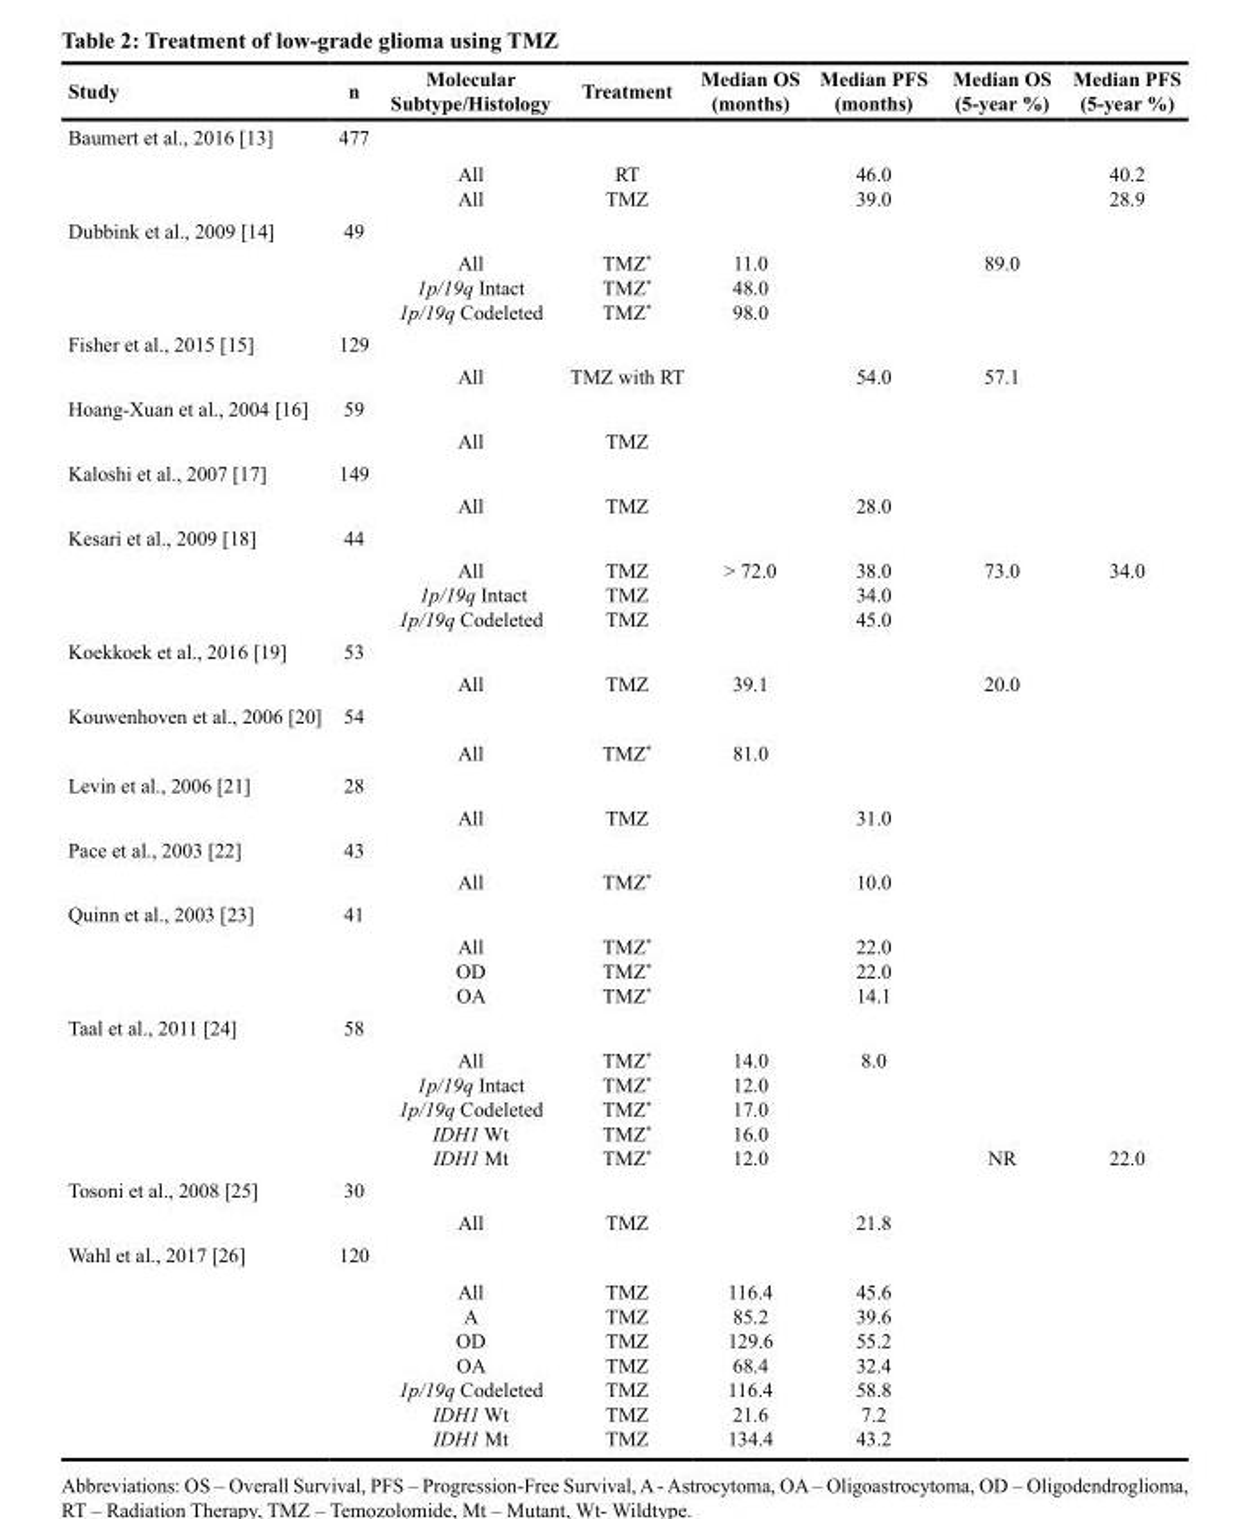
<table><thead><tr><td>Study</td><td>n</td><td>Molecular Subtype/Histology</td><td>Treatment</td><td>Median OS (months)</td><td>Median PFS (months)</td><td>Median OS (5-year %)</td><td>Median PFS (5-year %)</td></tr></thead><tbody><tr><td rowspan="2">Baumert et al., 2016 [13]</td><td>477</td><td></td><td></td><td></td><td></td><td></td><td></td></tr><tr><td></td><td>All All</td><td>RT TMZ</td><td></td><td>46.0 39.0</td><td></td><td>40.2 28.9</td></tr><tr><td rowspan="2">Dubbink et al., 2009 [14]</td><td>49</td><td></td><td></td><td></td><td></td><td></td><td></td></tr><tr><td></td><td>All 1p/19q Intact 1p/19q Codeleted</td><td>TMZ* TMZ* TMZ*</td><td>11.0 48.0 98.0</td><td></td><td>89.0</td><td></td></tr><tr><td rowspan="2">Fisher et al., 2015 [15]</td><td>129</td><td></td><td></td><td></td><td></td><td></td><td></td></tr><tr><td></td><td>All</td><td>TMZ with RT</td><td></td><td>54.0</td><td>57.1</td><td></td></tr><tr><td rowspan="2">Hoang-Xuan et al., 2004 [16]</td><td>59</td><td></td><td></td><td></td><td></td><td></td><td></td></tr><tr><td></td><td>All</td><td>TMZ</td><td></td><td></td><td></td><td></td></tr><tr><td rowspan="2">Kaloshi et al., 2007 [17]</td><td>149</td><td></td><td></td><td></td><td></td><td></td><td></td></tr><tr><td></td><td>All</td><td>TMZ</td><td></td><td>28.0</td><td></td><td></td></tr><tr><td rowspan="2">Kesari et al., 2009 [18]</td><td>44</td><td></td><td></td><td></td><td></td><td></td><td></td></tr><tr><td></td><td>All 1p/19q Intact 1p/19q Codeleted</td><td>TMZ TMZ TMZ</td><td>&gt; 72.0</td><td>38.0 34.0 45.0</td><td>73.0</td><td>34.0</td></tr><tr><td rowspan="2">Koekkoek et al., 2016 [19]</td><td>53</td><td></td><td></td><td></td><td></td><td></td><td></td></tr><tr><td></td><td>All</td><td>TMZ</td><td>39.1</td><td></td><td>20.0</td><td></td></tr><tr><td rowspan="2">Kouwenhoven et al., 2006 [20]</td><td>54</td><td></td><td></td><td></td><td></td><td></td><td></td></tr><tr><td></td><td>All</td><td>TMZ*</td><td>81.0</td><td></td><td></td><td></td></tr><tr><td rowspan="2">Levin et al., 2006 [21]</td><td>28</td><td></td><td></td><td></td><td></td><td></td><td></td></tr><tr><td></td><td>All</td><td>TMZ</td><td></td><td>31.0</td><td></td><td></td></tr><tr><td rowspan="2">Pace et al., 2003 [22]</td><td>43</td><td></td><td></td><td></td><td></td><td></td><td></td></tr><tr><td></td><td>All</td><td>TMZ*</td><td></td><td>10.0</td><td></td><td></td></tr><tr><td rowspan="2">Quinn et al., 2003 [23]</td><td>41</td><td></td><td></td><td></td><td></td><td></td><td></td></tr><tr><td></td><td>All OD OA</td><td>TMZ* TMZ* TMZ*</td><td></td><td>22.0 22.0 14.1</td><td></td><td></td></tr><tr><td rowspan="2">Taal et al., 2011 [24]</td><td>58</td><td></td><td></td><td></td><td></td><td></td><td></td></tr><tr><td></td><td>All 1p/19q Intact 1p/19q Codeleted IDH1 Wt IDH1 Mt</td><td>TMZ* TMZ* TMZ* TMZ* TMZ*</td><td>14.0 12.0 17.0 16.0 12.0</td><td>8.0</td><td>NR</td><td>22.0</td></tr><tr><td rowspan="2">Tosoni et al., 2008 [25]</td><td>30</td><td></td><td></td><td></td><td></td><td></td><td></td></tr><tr><td></td><td>All</td><td>TMZ</td><td></td><td>21.8</td><td></td><td></td></tr><tr><td rowspan="2">Wahl et al., 2017 [26]</td><td>120</td><td></td><td></td><td></td><td></td><td></td><td></td></tr><tr><td></td><td>All A OD OA 1p/19q Codeleted IDH1 Wt IDH1 Mt</td><td>TMZ TMZ TMZ TMZ TMZ TMZ TMZ</td><td>116.4 85.2 129.6 68.4 116.4 21.6 134.4</td><td>45.6 39.6 55.2 32.4 58.8 7.2 43.2</td><td></td><td></td></tr></tbody></table>